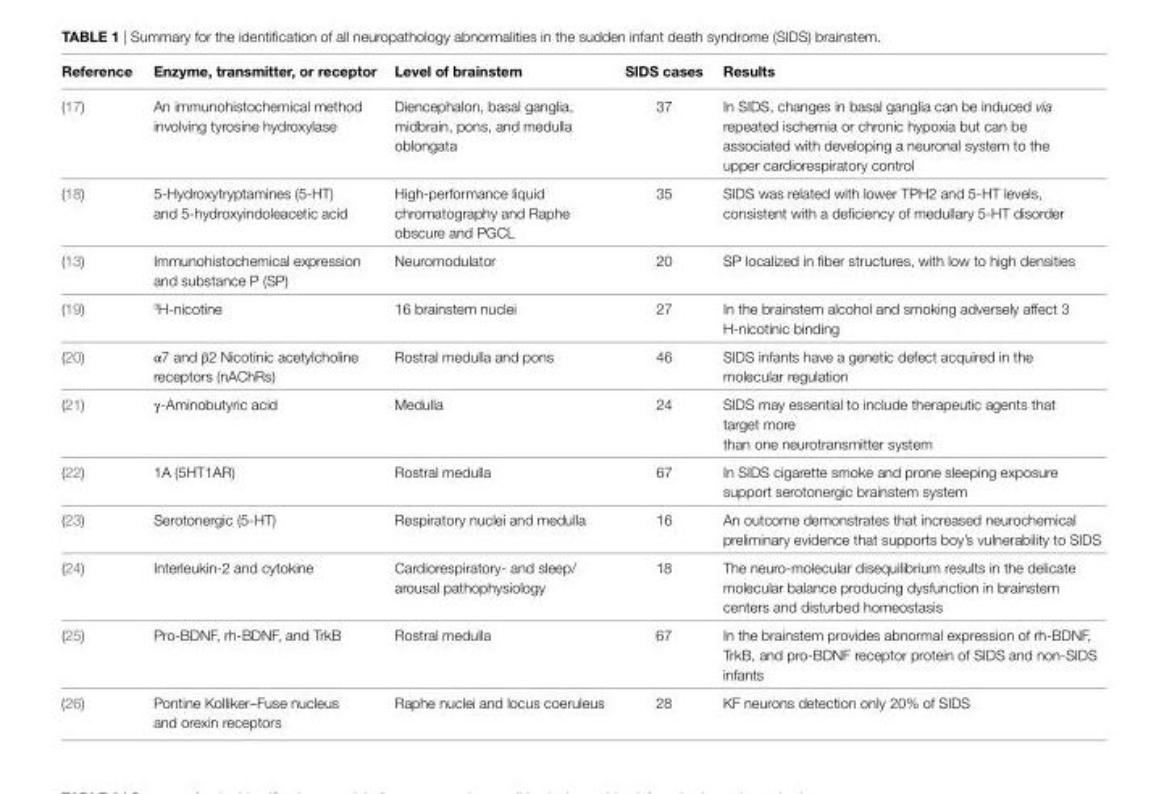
<table><thead><tr><td>Reference</td><td>enzyme, transmitter, or receptor</td><td>level of brainstem</td><td>SiDS cases</td><td>Results</td></tr></thead><tbody><tr><td>(17)</td><td>An immunohistochemical method involving tyrosine hydroxylase</td><td>Diencephalon, basal ganglia, midbrain, pons, and medulla oblongata</td><td>37</td><td>In SIDS, changes in basal ganglia can be induced via repeated ischemia or chronic hypoxia but can be associated with developing a neuronal system to the upper cardiorespiratory control</td></tr><tr><td>(18)</td><td>5-Hydroxytryptamines (5-HT) and 5-hydroxyindoleacetic acid</td><td>High-performance liquid chromatography and Raphe obscure and PGCL</td><td>35</td><td>SIDS was related with lower TPH2 and 5-HT levels, consistent with a deficiency of medullary 5-HT disorder</td></tr><tr><td>(13)</td><td>Immunohistochemical expression and substance P (SP)</td><td>Neuromodulator</td><td>20</td><td>SP localized in fiber structures, with low to high densities</td></tr><tr><td>(19)</td><td><sup>3</sup>H-nicotine</td><td>16 brainstem nuclei</td><td>27</td><td>In the brainstem alcohol and smoking adversely affect 3 H-nicotinic binding</td></tr><tr><td>(20)</td><td>α7 and β2 Nicotinic acetylcholine receptors (nAChRs)</td><td>Rostral medulla and pons</td><td>46</td><td>SIDS infants have a genetic defect acquired in the molecular regulation</td></tr><tr><td>(21)</td><td>γ-Aminobutyric acid</td><td>Medulla</td><td>24</td><td>SIDS may essential to include therapeutic agents that target more than one neurotransmitter system</td></tr><tr><td>(22)</td><td>1A (5HT1AR)</td><td>Rostral medulla</td><td>67</td><td>In SIDS cigarette smoke and prone sleeping exposure support serotonergic brainstem system</td></tr><tr><td>(23)</td><td>Serotonergic (5-HT)</td><td>Respiratory nuclei and medulla</td><td>16</td><td>An outcome demonstrates that increased neurochemical preliminary evidence that supports boy’s vulnerability to SIDS</td></tr><tr><td>(24)</td><td>Interleukin-2 and cytokine</td><td>Cardiorespiratory- and sleep/ arousal pathophysiology</td><td>18</td><td>The neuro-molecular disequilibrium results in the delicate molecular balance producing dysfunction in brainstem centers and disturbed homeostasis</td></tr><tr><td>(25)</td><td>Pro-BDNF, rh-BDNF, and TrkB</td><td>Rostral medulla</td><td>67</td><td>In the brainstem provides abnormal expression of rh-BDNF, TrkB, and pro-BDNF receptor protein of SIDS and non-SIDS infants</td></tr><tr><td>(26)</td><td>Pontine Kolliker–Fuse nucleus and orexin receptors</td><td>Raphe nuclei and locus coeruleus</td><td>28</td><td>KF neurons detection only 20% of SIDS</td></tr></tbody></table>